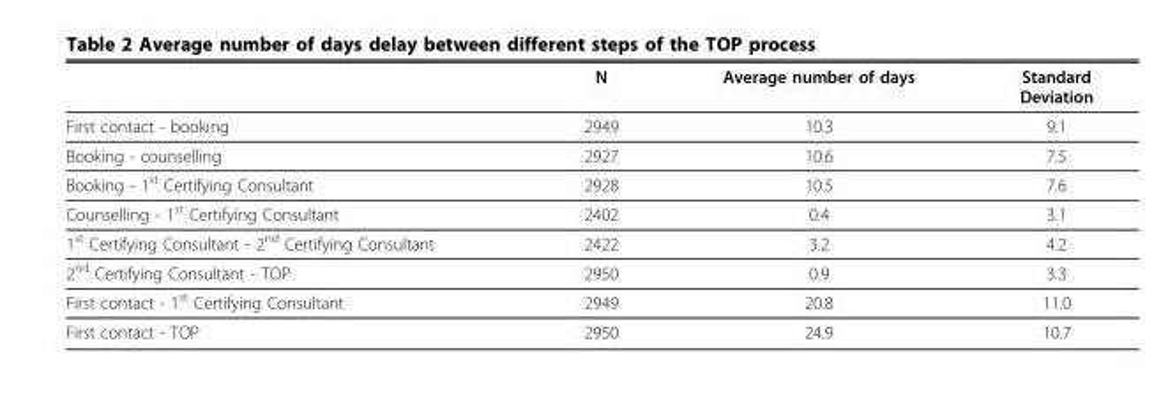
<table><thead><tr><td></td><td>N</td><td>Average number of days</td><td>Standard Deviation</td></tr></thead><tbody><tr><td>First contact - booking</td><td>2949</td><td>10.3</td><td>9.1</td></tr><tr><td>Booking - counselling</td><td>2927</td><td>10.6</td><td>7.5</td></tr><tr><td>Booking - 1<sup>st</sup> Certifying Consultant</td><td>2928</td><td>10.5</td><td>7.6</td></tr><tr><td>Counselling - 1<sup>st</sup> Certifying Consultant</td><td>2402</td><td>0.4</td><td>3.1</td></tr><tr><td>1<sup>st</sup> Certifying Consultant - 2<sup>nd</sup> Certifying Consultant</td><td>2422</td><td>3.2</td><td>4.2</td></tr><tr><td>2<sup>nd</sup> Certifying Consultant - TOP</td><td>2950</td><td>0.9</td><td>3.3</td></tr><tr><td>First contact - 1<sup>st</sup> Certifying Consultant</td><td>2949</td><td>20.8</td><td>11.0</td></tr><tr><td>First contact - TOP</td><td>2950</td><td>24.9</td><td>10.7</td></tr></tbody></table>